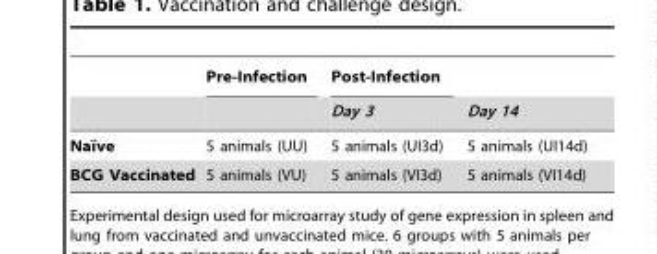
<table><thead><tr><td rowspan="2"></td><td rowspan="2">Pre-Infection</td><td rowspan="2">Post-Infection Day 3</td><td rowspan="2">Day 14</td></tr><tr></tr></thead><tbody><tr><td>Naı¨ve</td><td>5 animals (UU)</td><td>5 animals (UI3d)</td><td>5 animals (UI14d)</td></tr><tr><td>BCG Vaccinated</td><td>5 animals (VU)</td><td>5 animals (VI3d)</td><td>5 animals (VI14d)</td></tr></tbody></table>